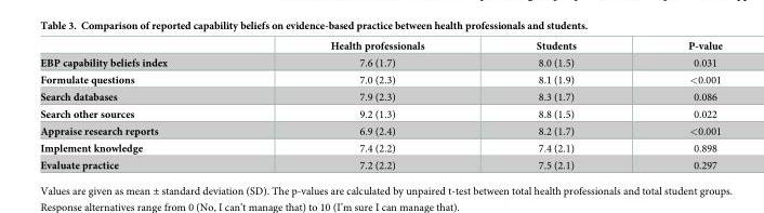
<table><thead><tr><td></td><td>Health professionals</td><td>Students</td><td>P-value</td></tr></thead><tbody><tr><td>EBP capability beliefs index</td><td>7.6 (1.7)</td><td>8.0 (1.5)</td><td>0.031</td></tr><tr><td>Formulate questions</td><td>7.0 (2.3)</td><td>8.1 (1.9)</td><td>&lt;0.001</td></tr><tr><td>Search databases</td><td>7.9 (2.3)</td><td>8.3 (1.7)</td><td>0.086</td></tr><tr><td>Search other sources</td><td>9.2 (1.3)</td><td>8.8 (1.5)</td><td>0.022</td></tr><tr><td>Appraise research reports</td><td>6.9 (2.4)</td><td>8.2 (1.7)</td><td>&lt;0.001</td></tr><tr><td>Implement knowledge</td><td>7.4 (2.2)</td><td>7.4 (2.1)</td><td>0.898</td></tr><tr><td>Evaluate practice</td><td>7.2 (2.2)</td><td>7.5 (2.1)</td><td>0.297</td></tr></tbody></table>